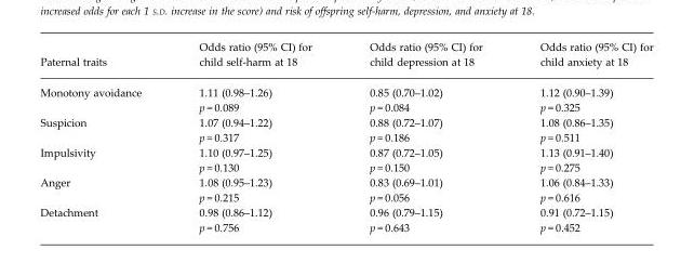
<table><thead><tr><td>Paternal traits</td><td>Odds ratio (95% CI) for child self-harm at 18</td><td>Odds ratio (95% CI) for child depression at 18</td><td>Odds ratio (95% CI) for child anxiety at 18</td></tr></thead><tbody><tr><td>Monotony avoidance</td><td>1.11 (0.98–1.26) p = 0.089</td><td>0.85 (0.70–1.02) p = 0.084</td><td>1.12 (0.90–1.39) p = 0.325</td></tr><tr><td>Suspicion</td><td>1.07 (0.94–1.22) p = 0.317</td><td>0.88 (0.72–1.07) p = 0.186</td><td>1.08 (0.86–1.35) p = 0.511</td></tr><tr><td>Impulsivity</td><td>1.10 (0.97–1.25) p = 0.130</td><td>0.87 (0.72–1.05) p = 0.150</td><td>1.13 (0.91–1.40) p = 0.275</td></tr><tr><td>Anger</td><td>1.08 (0.95–1.23) p = 0.215</td><td>0.83 (0.69–1.01) p = 0.056</td><td>1.06 (0.84–1.33) p = 0.616</td></tr><tr><td>Detachment</td><td>0.98 (0.86–1.12) p = 0.756</td><td>0.96 (0.79–1.15) p = 0.643</td><td>0.91 (0.72–1.15) p = 0.452</td></tr></tbody></table>